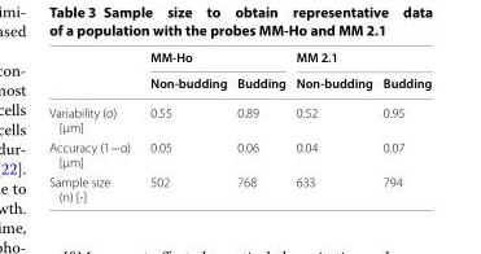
<table><thead><tr><td rowspan="2"></td><td colspan="2">MM-Ho</td><td colspan="2">MM 2.1</td></tr><tr><td>Non-budding</td><td>Budding</td><td>Non-budding</td><td>Budding</td></tr></thead><tbody><tr><td>Variability (σ) [µm]</td><td>0.55</td><td>0.89</td><td>0.52</td><td>0.95</td></tr><tr><td>Accuracy (1−α) [µm]</td><td>0.05</td><td>0.06</td><td>0.04</td><td>0.07</td></tr><tr><td>Sample size (n) [‑]</td><td>502</td><td>768</td><td>633</td><td>794</td></tr></tbody></table>